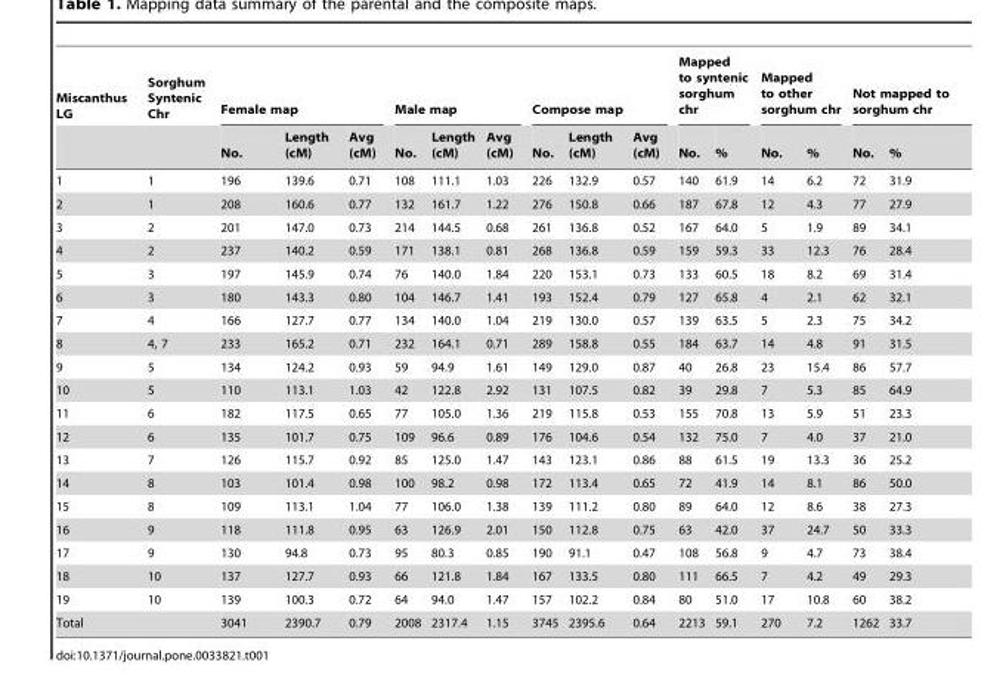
<table><thead><tr><td rowspan="2">Miscanthus LG</td><td rowspan="2">Sorghum Syntenic Chr</td><td colspan="3">Female map</td><td colspan="3">Male map</td><td colspan="3">Compose map</td><td colspan="2">Mapped to syntenic sorghum chr</td><td colspan="2">Mapped to other sorghum chr</td><td colspan="2">Not mapped to sorghum chr</td></tr><tr><td>No.</td><td>Length (cM)</td><td>Avg (cM)</td><td>No.</td><td>Length (cM)</td><td>Avg (cM)</td><td>No.</td><td>Length (cM)</td><td>Avg (cM)</td><td>No.</td><td>%</td><td>No.</td><td>%</td><td>No.</td><td>%</td></tr></thead><tbody><tr><td>1</td><td>1</td><td>196</td><td>139.6</td><td>0.71</td><td>108</td><td>111.1</td><td>1.03</td><td>226</td><td>132.9</td><td>0.57</td><td>140</td><td>61.9</td><td>14</td><td>6.2</td><td>72</td><td>31.9</td></tr><tr><td>2</td><td>1</td><td>208</td><td>160.6</td><td>0.77</td><td>132</td><td>161.7</td><td>1.22</td><td>276</td><td>150.8</td><td>0.66</td><td>187</td><td>67.8</td><td>12</td><td>4.3</td><td>77</td><td>27.9</td></tr><tr><td>3</td><td>2</td><td>201</td><td>147.0</td><td>0.73</td><td>214</td><td>144.5</td><td>0.68</td><td>261</td><td>136.8</td><td>0.52</td><td>167</td><td>64.0</td><td>5</td><td>1.9</td><td>89</td><td>34.1</td></tr><tr><td>4</td><td>2</td><td>237</td><td>140.2</td><td>0.59</td><td>171</td><td>138.1</td><td>0.81</td><td>268</td><td>136.8</td><td>0.59</td><td>159</td><td>59.3</td><td>33</td><td>12.3</td><td>76</td><td>28.4</td></tr><tr><td>5</td><td>3</td><td>197</td><td>145.9</td><td>0.74</td><td>76</td><td>140.0</td><td>1.84</td><td>220</td><td>153.1</td><td>0.73</td><td>133</td><td>60.5</td><td>18</td><td>8.2</td><td>69</td><td>31.4</td></tr><tr><td>6</td><td>3</td><td>180</td><td>143.3</td><td>0.80</td><td>104</td><td>146.7</td><td>1.41</td><td>193</td><td>152.4</td><td>0.79</td><td>127</td><td>65.8</td><td>4</td><td>2.1</td><td>62</td><td>32.1</td></tr><tr><td>7</td><td>4</td><td>166</td><td>127.7</td><td>0.77</td><td>134</td><td>140.0</td><td>1.04</td><td>219</td><td>130.0</td><td>0.57</td><td>139</td><td>63.5</td><td>5</td><td>2.3</td><td>75</td><td>34.2</td></tr><tr><td>8</td><td>4, 7</td><td>233</td><td>165.2</td><td>0.71</td><td>232</td><td>164.1</td><td>0.71</td><td>289</td><td>158.8</td><td>0.55</td><td>184</td><td>63.7</td><td>14</td><td>4.8</td><td>91</td><td>31.5</td></tr><tr><td>9</td><td>5</td><td>134</td><td>124.2</td><td>0.93</td><td>59</td><td>94.9</td><td>1.61</td><td>149</td><td>129.0</td><td>0.87</td><td>40</td><td>26.8</td><td>23</td><td>15.4</td><td>86</td><td>57.7</td></tr><tr><td>10</td><td>5</td><td>110</td><td>113.1</td><td>1.03</td><td>42</td><td>122.8</td><td>2.92</td><td>131</td><td>107.5</td><td>0.82</td><td>39</td><td>29.8</td><td>7</td><td>5.3</td><td>85</td><td>64.9</td></tr><tr><td>11</td><td>6</td><td>182</td><td>117.5</td><td>0.65</td><td>77</td><td>105.0</td><td>1.36</td><td>219</td><td>115.8</td><td>0.53</td><td>155</td><td>70.8</td><td>13</td><td>5.9</td><td>51</td><td>23.3</td></tr><tr><td>12</td><td>6</td><td>135</td><td>101.7</td><td>0.75</td><td>109</td><td>96.6</td><td>0.89</td><td>176</td><td>104.6</td><td>0.54</td><td>132</td><td>75.0</td><td>7</td><td>4.0</td><td>37</td><td>21.0</td></tr><tr><td>13</td><td>7</td><td>126</td><td>115.7</td><td>0.92</td><td>85</td><td>125.0</td><td>1.47</td><td>143</td><td>123.1</td><td>0.86</td><td>88</td><td>61.5</td><td>19</td><td>13.3</td><td>36</td><td>25.2</td></tr><tr><td>14</td><td>8</td><td>103</td><td>101.4</td><td>0.98</td><td>100</td><td>98.2</td><td>0.98</td><td>172</td><td>113.4</td><td>0.65</td><td>72</td><td>41.9</td><td>14</td><td>8.1</td><td>86</td><td>50.0</td></tr><tr><td>15</td><td>8</td><td>109</td><td>113.1</td><td>1.04</td><td>77</td><td>106.0</td><td>1.38</td><td>139</td><td>111.2</td><td>0.80</td><td>89</td><td>64.0</td><td>12</td><td>8.6</td><td>38</td><td>27.3</td></tr><tr><td>16</td><td>9</td><td>118</td><td>111.8</td><td>0.95</td><td>63</td><td>126.9</td><td>2.01</td><td>150</td><td>112.8</td><td>0.75</td><td>63</td><td>42.0</td><td>37</td><td>24.7</td><td>50</td><td>33.3</td></tr><tr><td>17</td><td>9</td><td>130</td><td>94.8</td><td>0.73</td><td>95</td><td>80.3</td><td>0.85</td><td>190</td><td>91.1</td><td>0.47</td><td>108</td><td>56.8</td><td>9</td><td>4.7</td><td>73</td><td>38.4</td></tr><tr><td>18</td><td>10</td><td>137</td><td>127.7</td><td>0.93</td><td>66</td><td>121.8</td><td>1.84</td><td>167</td><td>133.5</td><td>0.80</td><td>111</td><td>66.5</td><td>7</td><td>4.2</td><td>49</td><td>29.3</td></tr><tr><td>19</td><td>10</td><td>139</td><td>100.3</td><td>0.72</td><td>64</td><td>94.0</td><td>1.47</td><td>157</td><td>102.2</td><td>0.84</td><td>80</td><td>51.0</td><td>17</td><td>10.8</td><td>60</td><td>38.2</td></tr><tr><td>Total</td><td></td><td>3041</td><td>2390.7</td><td>0.79</td><td>2008</td><td>2317.4</td><td>1.15</td><td>3745</td><td>2395.6</td><td>0.64</td><td>2213</td><td>59.1</td><td>270</td><td>7.2</td><td>1262</td><td>33.7</td></tr></tbody></table>